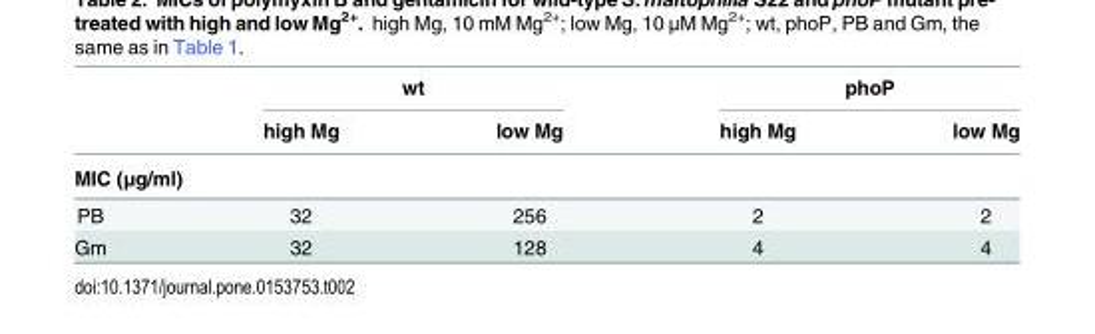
<table><thead><tr><td rowspan="2"></td><td colspan="2">wt</td><td colspan="2">phoP</td></tr><tr><td>high Mg</td><td>low Mg</td><td>high Mg</td><td>low Mg</td></tr><tr><td colspan="5">MIC (μg/ml)</td></tr></thead><tbody><tr><td>PB</td><td>32</td><td>256</td><td>2</td><td>2</td></tr><tr><td>Gm</td><td>32</td><td>128</td><td>4</td><td>4</td></tr></tbody></table>